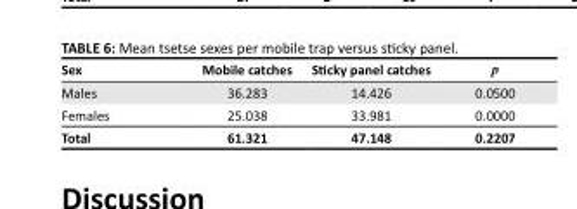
<table><thead><tr><td>Sex</td><td>Mobile catches</td><td>Sticky panel catches</td><td>p</td></tr></thead><tbody><tr><td>Males</td><td>36.283</td><td>14.426</td><td>0.0500</td></tr><tr><td>Females</td><td>25.038</td><td>33.981</td><td>0.0000</td></tr><tr><td>Total</td><td>61.321</td><td>47.148</td><td>0.2207</td></tr></tbody></table>